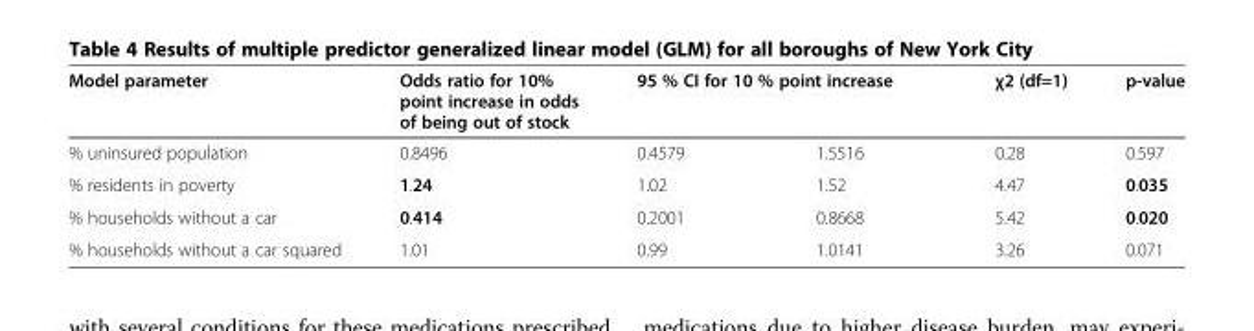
<table><thead><tr><td rowspan="2">Model parameter % uninsured population</td><td rowspan="2">Odds ratio for 10% point increase in odds of being out of stock 0.8496</td><td colspan="2">95 % CI for 10 % point increase</td><td rowspan="2">χ2 (df=1) 0.28</td><td rowspan="2">p-value 0.597</td></tr><tr><td>0.4579</td><td>1.5516</td></tr></thead><tbody><tr><td>% residents in poverty</td><td>1.24</td><td>1.02</td><td>1.52</td><td>4.47</td><td>0.035</td></tr><tr><td>% households without a car</td><td>0.414</td><td>0.2001</td><td>0.8668</td><td>5.42</td><td>0.020</td></tr><tr><td>% households without a car squared</td><td>1.01</td><td>0.99</td><td>1.0141</td><td>3.26</td><td>0.071</td></tr></tbody></table>